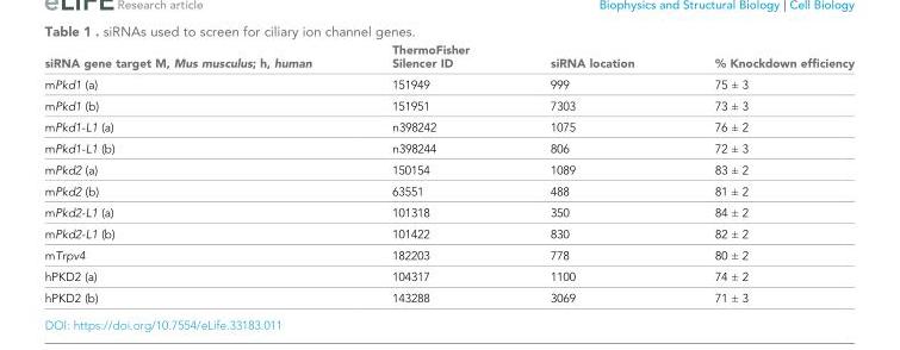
<table><thead><tr><td>siRNA gene target M, Mus musculus; h, human</td><td>ThermoFisher Silencer ID</td><td>siRNA location</td><td>% Knockdown efficiency</td></tr></thead><tbody><tr><td>mPkd1 (a)</td><td>151949</td><td>999</td><td>75 ± 3</td></tr><tr><td>mPkd1 (b)</td><td>151951</td><td>7303</td><td>73 ± 3</td></tr><tr><td>mPkd1-L1 (a)</td><td>n398242</td><td>1075</td><td>76 ± 2</td></tr><tr><td>mPkd1-L1 (b)</td><td>n398244</td><td>806</td><td>72 ± 3</td></tr><tr><td>mPkd2 (a)</td><td>150154</td><td>1089</td><td>83 ± 2</td></tr><tr><td>mPkd2 (b)</td><td>63551</td><td>488</td><td>81 ± 2</td></tr><tr><td>mPkd2-L1 (a)</td><td>101318</td><td>350</td><td>84 ± 2</td></tr><tr><td>mPkd2-L1 (b)</td><td>101422</td><td>830</td><td>82 ± 2</td></tr><tr><td>mTrpv4</td><td>182203</td><td>778</td><td>80 ± 2</td></tr><tr><td>hPKD2 (a)</td><td>104317</td><td>1100</td><td>74 ± 2</td></tr><tr><td>hPKD2 (b)</td><td>143288</td><td>3069</td><td>71 ± 3</td></tr></tbody></table>